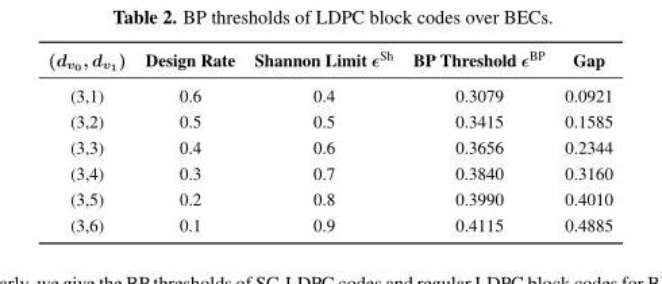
<table><thead><tr><td>(dv0, dv1)</td><td>Design Rate</td><td>Shannon Limit ϵ<sup>Sh</sup></td><td>BP Threshold ϵ<sup>BP</sup></td><td>Gap</td></tr></thead><tbody><tr><td>(3,1)</td><td>0.6</td><td>0.4</td><td>0.3079</td><td>0.0921</td></tr><tr><td>(3,2)</td><td>0.5</td><td>0.5</td><td>0.3415</td><td>0.1585</td></tr><tr><td>(3,3)</td><td>0.4</td><td>0.6</td><td>0.3656</td><td>0.2344</td></tr><tr><td>(3,4)</td><td>0.3</td><td>0.7</td><td>0.3840</td><td>0.3160</td></tr><tr><td>(3,5)</td><td>0.2</td><td>0.8</td><td>0.3990</td><td>0.4010</td></tr><tr><td>(3,6)</td><td>0.1</td><td>0.9</td><td>0.4115</td><td>0.4885</td></tr></tbody></table>